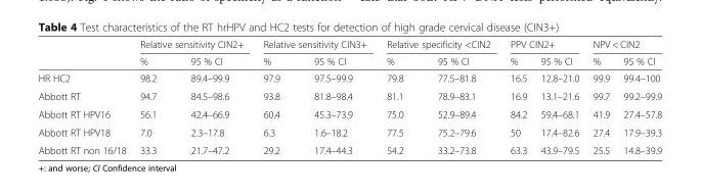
<table><thead><tr><td rowspan="2"></td><td colspan="2">Relative sensitivity CIN2+</td><td colspan="2">Relative sensitivity CIN3+</td><td colspan="2">Relative specificity &lt;CIN2</td><td colspan="2">PPV CIN2+</td><td colspan="2">NPV &lt; CIN2</td></tr><tr><td>%</td><td>95 % CI</td><td>%</td><td>95 % CI</td><td>%</td><td>95 % CI</td><td>%</td><td>95 % CI</td><td>%</td><td>95 % CI</td></tr></thead><tbody><tr><td>HR HC2</td><td>98.2</td><td>89.4–99.9</td><td>97.9</td><td>97.5–99.9</td><td>79.8</td><td>77.5–81.8</td><td>16.5</td><td>12.8–21.0</td><td>99.9</td><td>99.4–100</td></tr><tr><td>Abbott RT</td><td>94.7</td><td>84.5–98.6</td><td>93.8</td><td>81.8–98.4</td><td>81.1</td><td>78.9–83.1</td><td>16.9</td><td>13.1–21.6</td><td>99.7</td><td>99.2–99.9</td></tr><tr><td>Abbott RT HPV16</td><td>56.1</td><td>42.4–66.9</td><td>60.4</td><td>45.3–73.9</td><td>75.0</td><td>52.9–89.4</td><td>84.2</td><td>59.4–68.1</td><td>41.9</td><td>27.4–57.8</td></tr><tr><td>Abbott RT HPV18</td><td>7.0</td><td>2.3–17.8</td><td>6.3</td><td>1.6–18.2</td><td>77.5</td><td>75.2–79.6</td><td>50</td><td>17.4–82.6</td><td>27.4</td><td>17.9–39.3</td></tr><tr><td>Abbott RT non 16/18</td><td>33.3</td><td>21.7–47.2</td><td>29.2</td><td>17.4–44.3</td><td>54.2</td><td>33.2–73.8</td><td>63.3</td><td>43.9–79.5</td><td>25.5</td><td>14.8–39.9</td></tr></tbody></table>